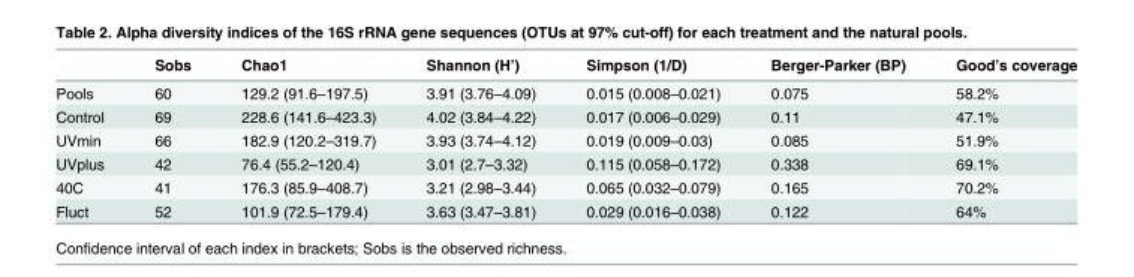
<table><thead><tr><td></td><td>Sobs</td><td>Chao1</td><td>Shannon (H’)</td><td>Simpson (1/D)</td><td>Berger-Parker (BP)</td><td>Good’s coverage</td></tr></thead><tbody><tr><td>Pools</td><td>60</td><td>129.2 (91.6–197.5)</td><td>3.91 (3.76–4.09)</td><td>0.015 (0.008–0.021)</td><td>0.075</td><td>58.2%</td></tr><tr><td>Control</td><td>69</td><td>228.6 (141.6–423.3)</td><td>4.02 (3.84–4.22)</td><td>0.017 (0.006–0.029)</td><td>0.11</td><td>47.1%</td></tr><tr><td>UVmin</td><td>66</td><td>182.9 (120.2–319.7)</td><td>3.93 (3.74–4.12)</td><td>0.019 (0.009–0.03)</td><td>0.085</td><td>51.9%</td></tr><tr><td>UVplus</td><td>42</td><td>76.4 (55.2–120.4)</td><td>3.01 (2.7–3.32)</td><td>0.115 (0.058–0.172)</td><td>0.338</td><td>69.1%</td></tr><tr><td>40C</td><td>41</td><td>176.3 (85.9–408.7)</td><td>3.21 (2.98–3.44)</td><td>0.065 (0.032–0.079)</td><td>0.165</td><td>70.2%</td></tr><tr><td>Fluct</td><td>52</td><td>101.9 (72.5–179.4)</td><td>3.63 (3.47–3.81)</td><td>0.029 (0.016–0.038)</td><td>0.122</td><td>64%</td></tr></tbody></table>